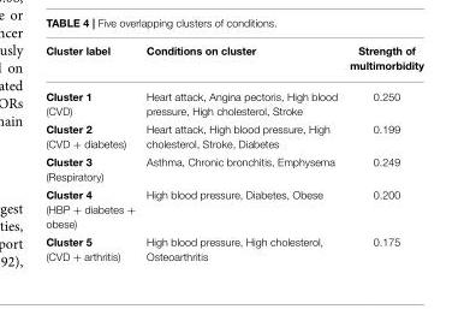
<table><thead><tr><td>Cluster label</td><td>Conditions on cluster</td><td>Strength of multimorbidity</td></tr></thead><tbody><tr><td>Cluster 1 (CVD)</td><td>Heart attack, Angina pectoris, High blood pressure, High cholesterol, Stroke</td><td>0.250</td></tr><tr><td>Cluster 2 (CVD + diabetes)</td><td>Heart attack, High blood pressure, High cholesterol, Stroke, Diabetes</td><td>0.199</td></tr><tr><td>Cluster 3 (Respiratory)</td><td>Asthma, Chronic bronchitis, Emphysema</td><td>0.249</td></tr><tr><td>Cluster 4 (HBP + diabetes + obese)</td><td>High blood pressure, Diabetes, Obese</td><td>0.200</td></tr><tr><td>Cluster 5 (CVD + arthritis)</td><td>High blood pressure, High cholesterol, Osteoarthritis</td><td>0.175</td></tr></tbody></table>